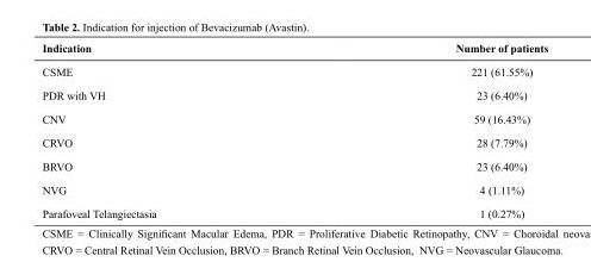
<table><thead><tr><td>Indication</td><td>Number of patients</td></tr></thead><tbody><tr><td>CSME</td><td>221 (61.55%)</td></tr><tr><td>PDR with VH</td><td>23 (6.40%)</td></tr><tr><td>CNV</td><td>59 (16.43%)</td></tr><tr><td>CRVO</td><td>28 (7.79%)</td></tr><tr><td>BRVO</td><td>23 (6.40%)</td></tr><tr><td>NVG</td><td>4 (1.11%)</td></tr><tr><td>Parafoveal Telangiectasia</td><td>1 (0.27%)</td></tr></tbody></table>